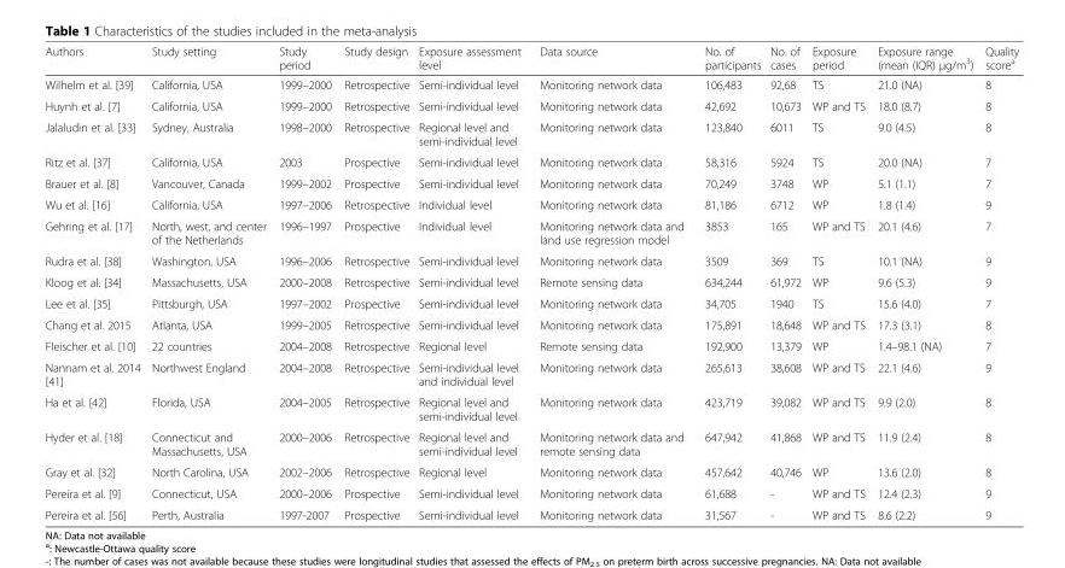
<table><thead><tr><td>Authors</td><td>Study setting</td><td>Study period</td><td>Study design</td><td>Exposure assessment level</td><td>Data source</td><td>No. of participants</td><td>No. of cases</td><td>Exposure period</td><td>Exposure range (mean (IQR) μg/m<sup>3</sup>)</td><td>Quality score<sup>a</sup></td></tr></thead><tbody><tr><td>Wilhelm et al. [39]</td><td>California, USA</td><td>1999–2000</td><td>Retrospective</td><td>Semi-individual level</td><td>Monitoring network data</td><td>106,483</td><td>92,68</td><td>TS</td><td>21.0 (NA)</td><td>8</td></tr><tr><td>Huynh et al. [7]</td><td>California, USA</td><td>1999–2000</td><td>Retrospective</td><td>Semi-individual level</td><td>Monitoring network data</td><td>42,692</td><td>10,673</td><td>WP and TS</td><td>18.0 (8.7)</td><td>8</td></tr><tr><td>Jalaludin et al. [33]</td><td>Sydney, Australia</td><td>1998–2000</td><td>Retrospective</td><td>Regional level and semi-individual level</td><td>Monitoring network data</td><td>123,840</td><td>6011</td><td>TS</td><td>9.0 (4.5)</td><td>8</td></tr><tr><td>Ritz et al. [37]</td><td>California, USA</td><td>2003</td><td>Prospective</td><td>Semi-individual level</td><td>Monitoring network data</td><td>58,316</td><td>5924</td><td>TS</td><td>20.0 (NA)</td><td>7</td></tr><tr><td>Brauer et al. [8]</td><td>Vancouver, Canada</td><td>1999–2002</td><td>Prospective</td><td>Semi-individual level</td><td>Monitoring network data</td><td>70,249</td><td>3748</td><td>WP</td><td>5.1 (1.1)</td><td>7</td></tr><tr><td>Wu et al. [16]</td><td>California, USA</td><td>1997–2006</td><td>Retrospective</td><td>Individual level</td><td>Monitoring network data</td><td>81,186</td><td>6712</td><td>WP</td><td>1.8 (1.4)</td><td>9</td></tr><tr><td>Gehring et al. [17]</td><td>North, west, and center of the Netherlands</td><td>1996–1997</td><td>Prospective</td><td>Individual level</td><td>Monitoring network data and land use regression model</td><td>3853</td><td>165</td><td>WP and TS</td><td>20.1 (4.6)</td><td>7</td></tr><tr><td>Rudra et al. [38]</td><td>Washington, USA</td><td>1996–2006</td><td>Retrospective</td><td>Semi-individual level</td><td>Monitoring network data</td><td>3509</td><td>369</td><td>TS</td><td>10.1 (NA)</td><td>9</td></tr><tr><td>Kloog et al. [34]</td><td>Massachusetts, USA</td><td>2000–2008</td><td>Retrospective</td><td>Semi-individual level</td><td>Remote sensing data</td><td>634,244</td><td>61,972</td><td>WP</td><td>9.6 (5.3)</td><td>9</td></tr><tr><td>Lee et al. [35]</td><td>Pittsburgh, USA</td><td>1997–2002</td><td>Prospective</td><td>Semi-individual level</td><td>Monitoring network data</td><td>34,705</td><td>1940</td><td>TS</td><td>15.6 (4.0)</td><td>7</td></tr><tr><td>Chang et al. 2015</td><td>Atlanta, USA</td><td>1999–2005</td><td>Retrospective</td><td>Semi-individual level</td><td>Monitoring network data</td><td>175,891</td><td>18,648</td><td>WP and TS</td><td>17.3 (3.1)</td><td>8</td></tr><tr><td>Fleischer et al. [10]</td><td>22 countries</td><td>2004–2008</td><td>Retrospective</td><td>Regional level</td><td>Remote sensing data</td><td>192,900</td><td>13,379</td><td>WP</td><td>1.4–98.1 (NA)</td><td>7</td></tr><tr><td>Nannam et al. 2014 [41]</td><td>Northwest England</td><td>2004–2008</td><td>Retrospective</td><td>Semi-individual level and individual level</td><td>Monitoring network data</td><td>265,613</td><td>38,608</td><td>WP and TS</td><td>22.1 (4.6)</td><td>9</td></tr><tr><td>Ha et al. [42]</td><td>Florida, USA</td><td>2004–2005</td><td>Retrospective</td><td>Regional level and semi-individual level</td><td>Monitoring network data</td><td>423,719</td><td>39,082</td><td>WP and TS</td><td>9.9 (2.0)</td><td>8</td></tr><tr><td>Hyder et al. [18]</td><td>Connecticut and Massachusetts, USA</td><td>2000–2006</td><td>Retrospective</td><td>Regional level and semi-individual level</td><td>Monitoring network data and remote sensing data</td><td>647,942</td><td>41,868</td><td>WP and TS</td><td>11.9 (2.4)</td><td>8</td></tr><tr><td>Gray et al. [32]</td><td>North Carolina, USA</td><td>2002–2006</td><td>Retrospective</td><td>Regional level</td><td>Monitoring network data</td><td>457,642</td><td>40,746</td><td>WP</td><td>13.6 (2.0)</td><td>8</td></tr><tr><td>Pereira et al. [9]</td><td>Connecticut, USA</td><td>2000–2006</td><td>Prospective</td><td>Semi-individual level</td><td>Monitoring network data</td><td>61,688</td><td>-</td><td>WP and TS</td><td>12.4 (2.3)</td><td>9</td></tr><tr><td>Pereira et al. [56]</td><td>Perth, Australia</td><td>1997-2007</td><td>Prospective</td><td>Semi-individual level</td><td>Monitoring network data</td><td>31,567</td><td>-</td><td>WP and TS</td><td>8.6 (2.2)</td><td>9</td></tr></tbody></table>